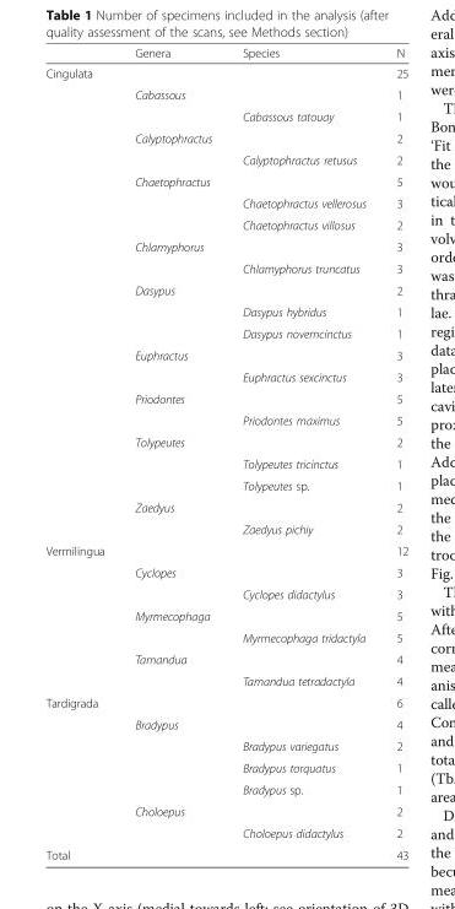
<table><thead><tr><td></td><td>Genera</td><td>Species</td><td>N</td></tr></thead><tbody><tr><td rowspan="22">Cingulata</td><td></td><td></td><td>25</td></tr><tr><td>Cabassous</td><td></td><td>1</td></tr><tr><td></td><td>Cabassous tatouay</td><td>1</td></tr><tr><td>Calyptophractus</td><td></td><td>2</td></tr><tr><td></td><td>Calyptophractus retusus</td><td>2</td></tr><tr><td>Chaetophractus</td><td></td><td>5</td></tr><tr><td></td><td>Chaetophractus vellerosus</td><td>3</td></tr><tr><td></td><td>Chaetophractus villosus</td><td>2</td></tr><tr><td>Chlamyphorus</td><td></td><td>3</td></tr><tr><td></td><td>Chlamyphorus truncatus</td><td>3</td></tr><tr><td>Dasypus</td><td></td><td>2</td></tr><tr><td></td><td>Dasypus hybridus</td><td>1</td></tr><tr><td></td><td>Dasypus novemcinctus</td><td>1</td></tr><tr><td>Euphractus</td><td></td><td>3</td></tr><tr><td></td><td>Euphractus sexcinctus</td><td>3</td></tr><tr><td>Priodontes</td><td></td><td>5</td></tr><tr><td></td><td>Priodontes maximus</td><td>5</td></tr><tr><td>Tolypeutes</td><td></td><td>2</td></tr><tr><td></td><td>Tolypeutes tricinctus</td><td>1</td></tr><tr><td></td><td>Tolypeutes sp.</td><td>1</td></tr><tr><td>Zaedyus</td><td></td><td>2</td></tr><tr><td></td><td>Zaedyus pichiy</td><td>2</td></tr><tr><td rowspan="7">Vermilingua</td><td></td><td></td><td>12</td></tr><tr><td>Cyclopes</td><td></td><td>3</td></tr><tr><td></td><td>Cyclopes didactylus</td><td>3</td></tr><tr><td>Myrmecophaga</td><td></td><td>5</td></tr><tr><td></td><td>Myrmecophaga tridactyla</td><td>5</td></tr><tr><td>Tamandua</td><td></td><td>4</td></tr><tr><td></td><td>Tamandua tetradactyla</td><td>4</td></tr><tr><td rowspan="7">Tardigrada</td><td></td><td></td><td>6</td></tr><tr><td>Bradypus</td><td></td><td>4</td></tr><tr><td></td><td>Bradypus variegatus</td><td>2</td></tr><tr><td></td><td>Bradypus torquatus</td><td>1</td></tr><tr><td></td><td>Bradypus sp.</td><td>1</td></tr><tr><td>Choloepus</td><td></td><td>2</td></tr><tr><td></td><td>Choloepus didactylus</td><td>2</td></tr><tr><td>Total</td><td></td><td></td><td>43</td></tr></tbody></table>